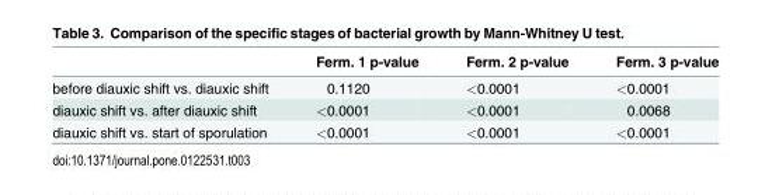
<table><thead><tr><td></td><td>Ferm. 1 p-value</td><td>Ferm. 2 p-value</td><td>Ferm. 3 p-value</td></tr></thead><tbody><tr><td>before diauxic shift vs. diauxic shift</td><td>0.1120</td><td>&lt;0.0001</td><td>&lt;0.0001</td></tr><tr><td>diauxic shift vs. after diauxic shift</td><td>&lt;0.0001</td><td>&lt;0.0001</td><td>0.0068</td></tr><tr><td>diauxic shift vs. start of sporulation</td><td>&lt;0.0001</td><td>&lt;0.0001</td><td>&lt;0.0001</td></tr></tbody></table>